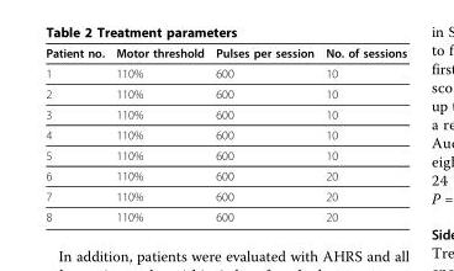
<table><thead><tr><td>Patient no.</td><td>Motor threshold</td><td>Pulses per session</td><td>No. of sessions</td></tr></thead><tbody><tr><td>1</td><td>110%</td><td>600</td><td>10</td></tr><tr><td>2</td><td>110%</td><td>600</td><td>10</td></tr><tr><td>3</td><td>110%</td><td>600</td><td>10</td></tr><tr><td>4</td><td>110%</td><td>600</td><td>10</td></tr><tr><td>5</td><td>110%</td><td>600</td><td>10</td></tr><tr><td>6</td><td>110%</td><td>600</td><td>20</td></tr><tr><td>7</td><td>110%</td><td>600</td><td>20</td></tr><tr><td>8</td><td>110%</td><td>600</td><td>20</td></tr></tbody></table>